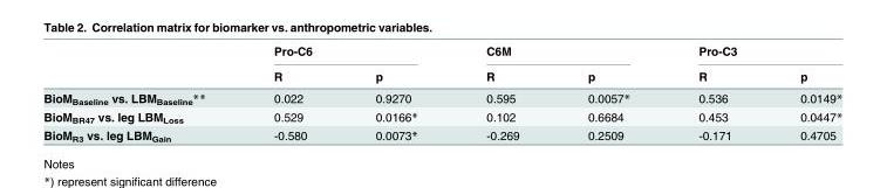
<table><thead><tr><td rowspan="2"></td><td colspan="2">Pro-C6</td><td colspan="2">C6M</td><td colspan="2">Pro-C3</td></tr><tr><td>R</td><td>p</td><td>R</td><td>p</td><td>R</td><td>p</td></tr></thead><tbody><tr><td>BioM<sub>Baseline</sub> vs. LBM<sub>Baseline</sub>**</td><td>0.022</td><td>0.9270</td><td>0.595</td><td>0.0057*</td><td>0.536</td><td>0.0149*</td></tr><tr><td>BioM<sub>BR47</sub> vs. leg LBM<sub>Loss</sub></td><td>0.529</td><td>0.0166*</td><td>0.102</td><td>0.6684</td><td>0.453</td><td>0.0447*</td></tr><tr><td>BioM<sub>R3</sub> vs. leg LBM<sub>Gain</sub></td><td>-0.580</td><td>0.0073*</td><td>-0.269</td><td>0.2509</td><td>-0.171</td><td>0.4705</td></tr></tbody></table>